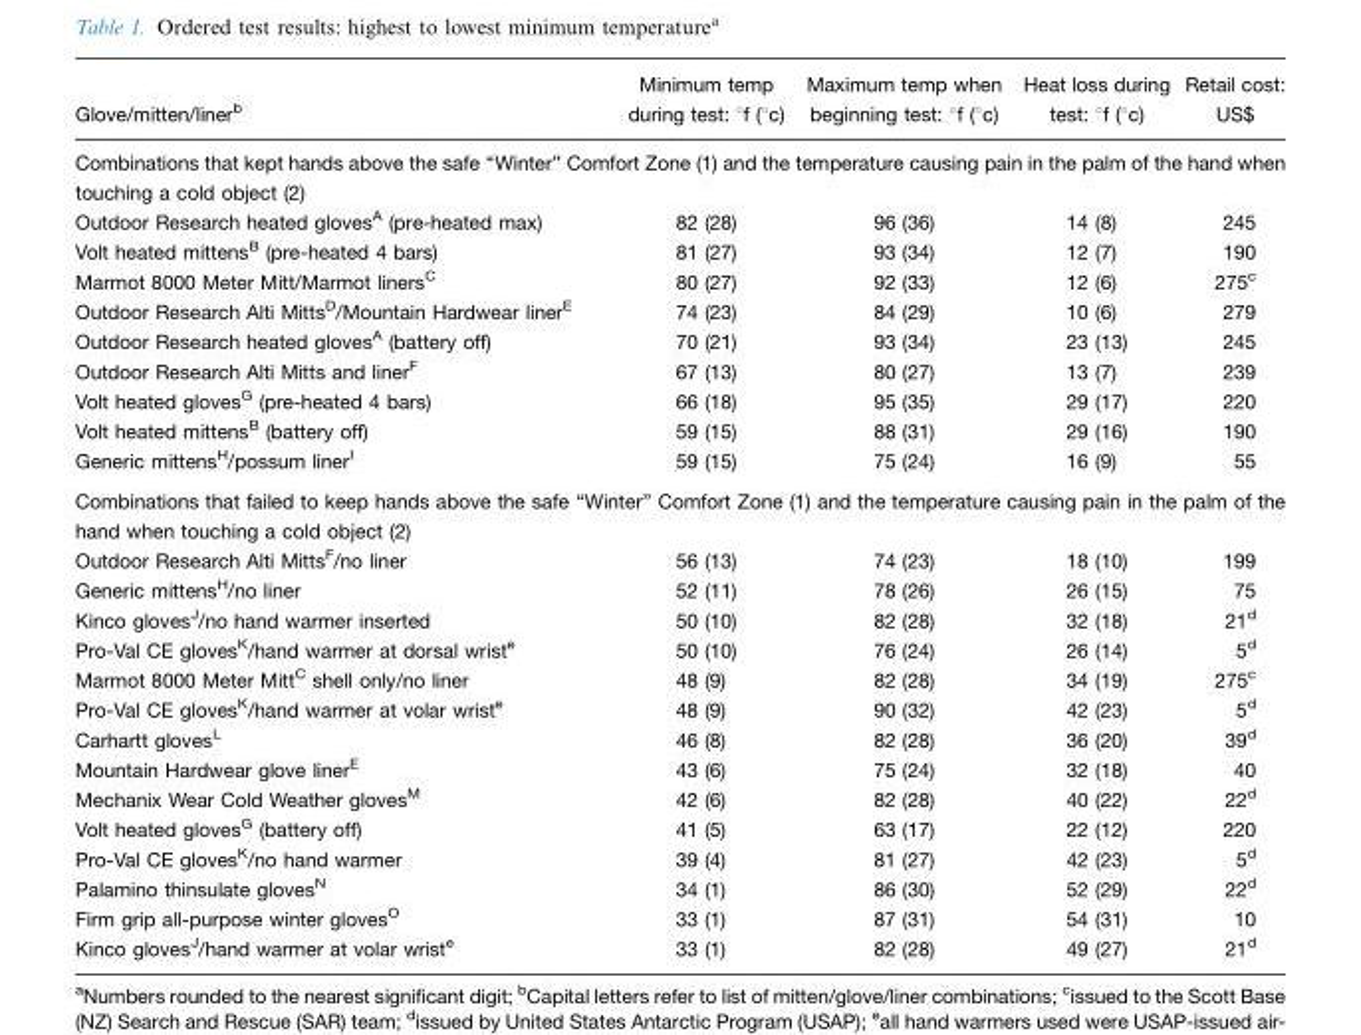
<table><thead><tr><td>Glove/mitten/liner<sup>b</sup></td><td>Minimum temp during test: °f (°c)</td><td>Maximum temp when beginning test: °f (°c)</td><td>Heat loss during test: °f (°c)</td><td>Retail cost: US$</td></tr></thead><tbody><tr><td colspan="5">Combinations that kept hands above the safe ‘‘Winter’’ Comfort Zone (1) and the temperature causing pain in the palm of the hand when touching a cold object (2)</td></tr><tr><td>Outdoor Research heated gloves<sup>A</sup> (pre-heated max)</td><td>82 (28)</td><td>96 (36)</td><td>14 (8)</td><td>245</td></tr><tr><td>Volt heated mittens<sup>B</sup> (pre-heated 4 bars)</td><td>81 (27)</td><td>93 (34)</td><td>12 (7)</td><td>190</td></tr><tr><td>Marmot 8000 Meter Mitt/Marmot liners<sup>C</sup></td><td>80 (27)</td><td>92 (33)</td><td>12 (6)</td><td>275<sup>c</sup></td></tr><tr><td>Outdoor Research Alti Mitts<sup>D</sup>/Mountain Hardwear liner<sup>E</sup></td><td>74 (23)</td><td>84 (29)</td><td>10 (6)</td><td>279</td></tr><tr><td>Outdoor Research heated gloves<sup>A</sup> (battery off)</td><td>70 (21)</td><td>93 (34)</td><td>23 (13)</td><td>245</td></tr><tr><td>Outdoor Research Alti Mitts and liner<sup>F</sup></td><td>67 (13)</td><td>80 (27)</td><td>13 (7)</td><td>239</td></tr><tr><td>Volt heated gloves<sup>G</sup> (pre-heated 4 bars)</td><td>66 (18)</td><td>95 (35)</td><td>29 (17)</td><td>220</td></tr><tr><td>Volt heated mittens<sup>B</sup> (battery off)</td><td>59 (15)</td><td>88 (31)</td><td>29 (16)</td><td>190</td></tr><tr><td>Generic mittens<sup>H</sup>/possum liner<sup>I</sup></td><td>59 (15)</td><td>75 (24)</td><td>16 (9)</td><td>55</td></tr><tr><td colspan="5">Combinations that failed to keep hands above the safe ‘‘Winter’’ Comfort Zone (1) and the temperature causing pain in the palm of the hand when touching a cold object (2)</td></tr><tr><td>Outdoor Research Alti Mitts<sup>F</sup>/no liner</td><td>56 (13)</td><td>74 (23)</td><td>18 (10)</td><td>199</td></tr><tr><td>Generic mittens<sup>H</sup>/no liner</td><td>52 (11)</td><td>78 (26)</td><td>26 (15)</td><td>75</td></tr><tr><td>Kinco gloves<sup>J</sup>/no hand warmer inserted</td><td>50 (10)</td><td>82 (28)</td><td>32 (18)</td><td>21<sup>d</sup></td></tr><tr><td>Pro-Val CE gloves<sup>K</sup>/hand warmer at dorsal wrist<sup>e</sup></td><td>50 (10)</td><td>76 (24)</td><td>26 (14)</td><td>5<sup>d</sup></td></tr><tr><td>Marmot 8000 Meter Mitt<sup>C</sup> shell only/no liner</td><td>48 (9)</td><td>82 (28)</td><td>34 (19)</td><td>275<sup>c</sup></td></tr><tr><td>Pro-Val CE gloves<sup>K</sup>/hand warmer at volar wrist<sup>e</sup></td><td>48 (9)</td><td>90 (32)</td><td>42 (23)</td><td>5<sup>d</sup></td></tr><tr><td>Carhartt gloves<sup>L</sup></td><td>46 (8)</td><td>82 (28)</td><td>36 (20)</td><td>39<sup>d</sup></td></tr><tr><td>Mountain Hardwear glove liner<sup>E</sup></td><td>43 (6)</td><td>75 (24)</td><td>32 (18)</td><td>40</td></tr><tr><td>Mechanix Wear Cold Weather gloves<sup>M</sup></td><td>42 (6)</td><td>82 (28)</td><td>40 (22)</td><td>22<sup>d</sup></td></tr><tr><td>Volt heated gloves<sup>G</sup> (battery off)</td><td>41 (5)</td><td>63 (17)</td><td>22 (12)</td><td>220</td></tr><tr><td>Pro-Val CE gloves<sup>K</sup>/no hand warmer</td><td>39 (4)</td><td>81 (27)</td><td>42 (23)</td><td>5<sup>d</sup></td></tr><tr><td>Palamino thinsulate gloves<sup>N</sup></td><td>34 (1)</td><td>86 (30)</td><td>52 (29)</td><td>22<sup>d</sup></td></tr><tr><td>Firm grip all-purpose winter gloves<sup>O</sup></td><td>33 (1)</td><td>87 (31)</td><td>54 (31)</td><td>10</td></tr><tr><td>Kinco gloves<sup>J</sup>/hand warmer at volar wrist<sup>e</sup></td><td>33 (1)</td><td>82 (28)</td><td>49 (27)</td><td>21<sup>d</sup></td></tr></tbody></table>